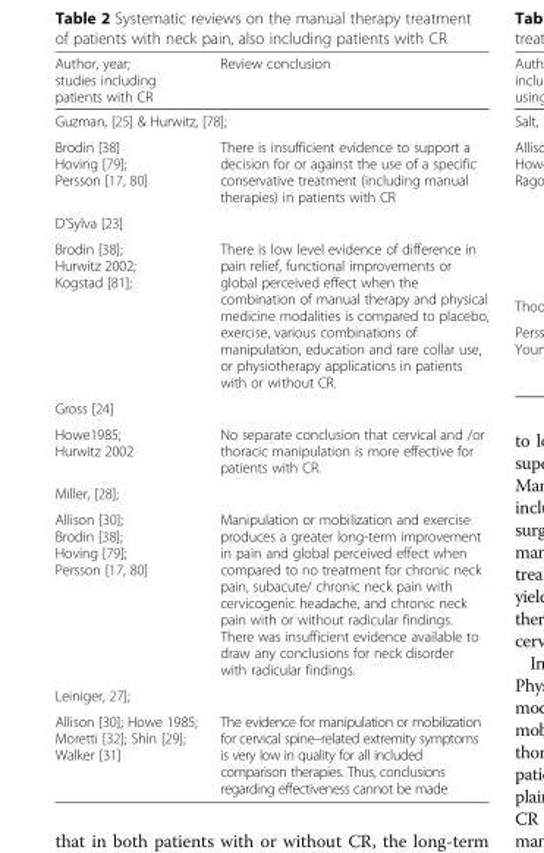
<table><thead><tr><td>Author, year; studies including patients with CR</td><td>Review conclusion</td></tr></thead><tbody><tr><td colspan="2">Guzman, [25] &amp; Hurwitz, [78];</td></tr><tr><td>Brodin [38] Hoving [79]; Persson [17, 80]</td><td>There is insufficient evidence to support a decision for or against the use of a specific conservative treatment (including manual therapies) in patients with CR</td></tr><tr><td colspan="2">D’Sylva [23]</td></tr><tr><td>Brodin [38]; Hurwitz 2002; Kogstad [81];</td><td>There is low level evidence of difference in pain relief, functional improvements or global perceived effect when the combination of manual therapy and physical medicine modalities is compared to placebo, exercise, various combinations of manipulation, education and rare collar use, or physiotherapy applications in patients with or without CR.</td></tr><tr><td colspan="2">Gross [24]</td></tr><tr><td>Howe1985; Hurwitz 2002</td><td>No separate conclusion that cervical and /or thoracic manipulation is more effective for patients with CR.</td></tr><tr><td colspan="2">Miller, [28];</td></tr><tr><td>Allison [30]; Brodin [38]; Hoving [79]; Persson [17, 80]</td><td>Manipulation or mobilization and exercise produces a greater long-term improvement in pain and global perceived effect when compared to no treatment for chronic neck pain, subacute/ chronic neck pain with cervicogenic headache, and chronic neck pain with or without radicular findings. There was insufficient evidence available to draw any conclusions for neck disorder with radicular findings.</td></tr><tr><td colspan="2">Leiniger, 27];</td></tr><tr><td>Allison [30]; Howe 1985; Moretti [32]; Shin [29]; Walker [31]</td><td>The evidence for manipulation or mobilization for cervical spine–related extremity symptoms is very low in quality for all included comparison therapies. Thus, conclusions regarding effectiveness cannot be made</td></tr></tbody></table>